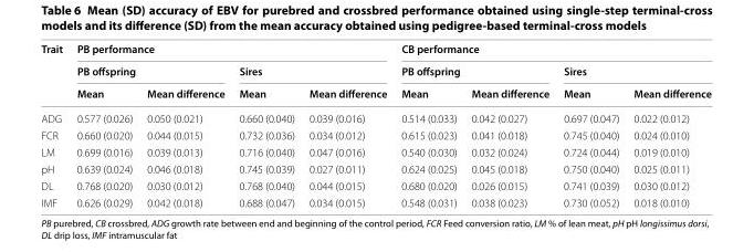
<table><thead><tr><td rowspan="3">Trait</td><td colspan="4">PB performance</td><td colspan="4">CB performance</td></tr><tr><td colspan="2">PB offspring</td><td colspan="2">Sires</td><td colspan="2">PB offspring</td><td colspan="2">Sires</td></tr><tr><td>Mean</td><td>Mean difference</td><td>Mean</td><td>Mean difference</td><td>Mean</td><td>Mean difference</td><td>Mean</td><td>Mean difference</td></tr></thead><tbody><tr><td>ADG</td><td>0.577 (0.026)</td><td>0.050 (0.021)</td><td>0.660 (0.040)</td><td>0.039 (0.016)</td><td>0.514 (0.033)</td><td>0.042 (0.027)</td><td>0.697 (0.047)</td><td>0.022 (0.012)</td></tr><tr><td>FCR</td><td>0.660 (0.020)</td><td>0.044 (0.015)</td><td>0.732 (0.036)</td><td>0.034 (0.012)</td><td>0.615 (0.023)</td><td>0.041 (0.018)</td><td>0.745 (0.040)</td><td>0.024 (0.010)</td></tr><tr><td>LM</td><td>0.699 (0.016)</td><td>0.039 (0.013)</td><td>0.716 (0.040)</td><td>0.047 (0.016)</td><td>0.540 (0.030)</td><td>0.032 (0.024)</td><td>0.724 (0.044)</td><td>0.019 (0.010)</td></tr><tr><td>pH</td><td>0.639 (0.024)</td><td>0.046 (0.018)</td><td>0.745 (0.039)</td><td>0.027 (0.011)</td><td>0.624 (0.025)</td><td>0.045 (0.018)</td><td>0.750 (0.040)</td><td>0.025 (0.011)</td></tr><tr><td>DL</td><td>0.768 (0.020)</td><td>0.030 (0.012)</td><td>0.768 (0.040)</td><td>0.044 (0.015)</td><td>0.680 (0.020)</td><td>0.026 (0.015)</td><td>0.741 (0.039)</td><td>0.030 (0.012)</td></tr><tr><td>IMF</td><td>0.626 (0.029)</td><td>0.042 (0.018)</td><td>0.688 (0.047)</td><td>0.034 (0.015)</td><td>0.548 (0.031)</td><td>0.038 (0.023)</td><td>0.730 (0.052)</td><td>0.018 (0.010)</td></tr></tbody></table>